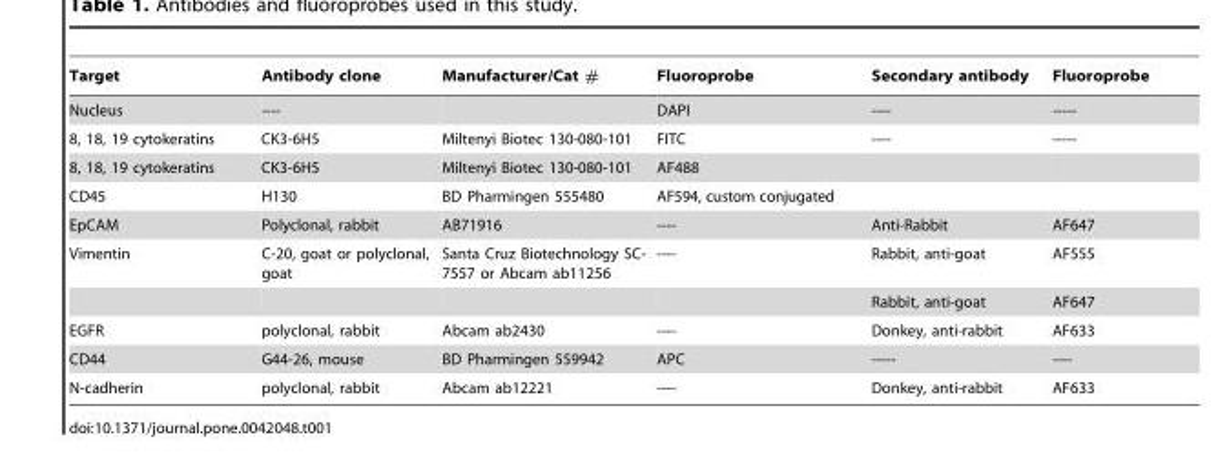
<table><thead><tr><td>Target</td><td>Antibody clone</td><td>Manufacturer/Cat #</td><td>Fluoroprobe</td><td>Secondary antibody</td><td>Fluoroprobe</td></tr></thead><tbody><tr><td>Nucleus</td><td>----</td><td></td><td>DAPI</td><td>----</td><td>-----</td></tr><tr><td>8, 18, 19 cytokeratins</td><td>CK3-6H5</td><td>Miltenyi Biotec 130-080-101</td><td>FITC</td><td>----</td><td>-----</td></tr><tr><td>8, 18, 19 cytokeratins</td><td>CK3-6H5</td><td>Miltenyi Biotec 130-080-101</td><td>AF488</td><td></td><td></td></tr><tr><td>CD45</td><td>H130</td><td>BD Pharmingen 555480</td><td>AF594, custom conjugated</td><td></td><td></td></tr><tr><td>EpCAM</td><td>Polyclonal, rabbit</td><td>AB71916</td><td>----</td><td>Anti-Rabbit</td><td>AF647</td></tr><tr><td rowspan="2">Vimentin</td><td>C-20, goat or polyclonal, goat</td><td>Santa Cruz Biotechnology SC- 7557 or Abcam ab11256</td><td>----</td><td>Rabbit, anti-goat</td><td>AF555</td></tr><tr><td></td><td></td><td></td><td>Rabbit, anti-goat</td><td>AF647</td></tr><tr><td>EGFR</td><td>polyclonal, rabbit</td><td>Abcam ab2430</td><td>----</td><td>Donkey, anti-rabbit</td><td>AF633</td></tr><tr><td>CD44</td><td>G44-26, mouse</td><td>BD Pharmingen 559942</td><td>APC</td><td>-----</td><td>----</td></tr><tr><td>N-cadherin</td><td>polyclonal, rabbit</td><td>Abcam ab12221</td><td>----</td><td>Donkey, anti-rabbit</td><td>AF633</td></tr></tbody></table>